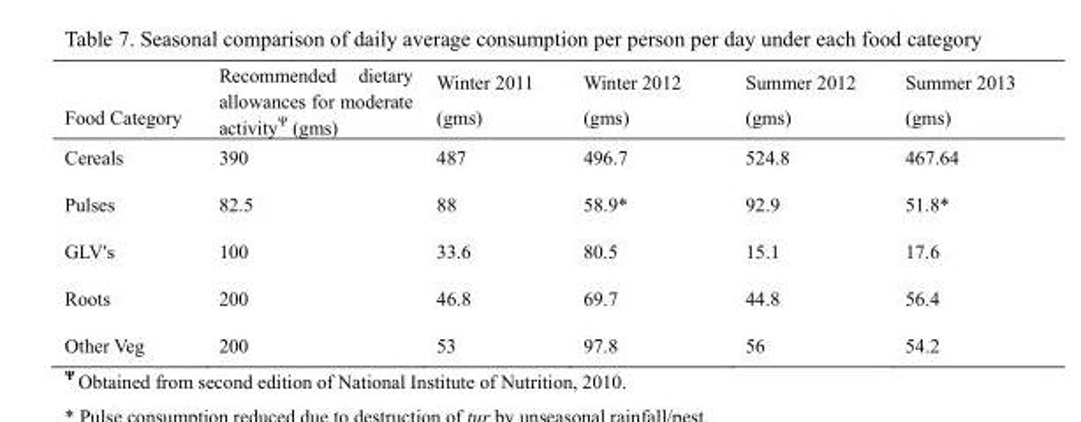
<table><thead><tr><td>Food Category</td><td>Recommended dietary allowances for moderate activity<sup>Ψ</sup> (gms)</td><td>Winter 2011 (gms)</td><td>Winter 2012 (gms)</td><td>Summer 2012 (gms)</td><td>Summer 2013 (gms)</td></tr></thead><tbody><tr><td>Cereals</td><td>390</td><td>487</td><td>496.7</td><td>524.8</td><td>467.64</td></tr><tr><td>Pulses</td><td>82.5</td><td>88</td><td>58.9*</td><td>92.9</td><td>51.8*</td></tr><tr><td>GLV&#x27;s</td><td>100</td><td>33.6</td><td>80.5</td><td>15.1</td><td>17.6</td></tr><tr><td>Roots</td><td>200</td><td>46.8</td><td>69.7</td><td>44.8</td><td>56.4</td></tr><tr><td>Other Veg</td><td>200</td><td>53</td><td>97.8</td><td>56</td><td>54.2</td></tr></tbody></table>